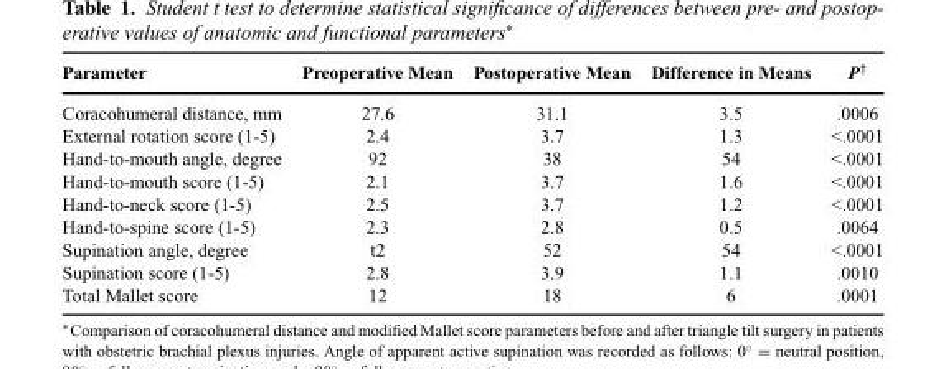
<table><thead><tr><td>Parameter</td><td>Preoperative Mean</td><td>Postoperative Mean</td><td>Difference in Means</td><td>P†</td></tr></thead><tbody><tr><td>Coracohumeral distance, mm</td><td>27.6</td><td>31.1</td><td>3.5</td><td>.0006</td></tr><tr><td>External rotation score (1-5)</td><td>2.4</td><td>3.7</td><td>1.3</td><td>&lt;.0001</td></tr><tr><td>Hand-to-mouth angle, degree</td><td>92</td><td>38</td><td>54</td><td>&lt;.0001</td></tr><tr><td>Hand-to-mouth score (1-5)</td><td>2.1</td><td>3.7</td><td>1.6</td><td>&lt;.0001</td></tr><tr><td>Hand-to-neck score (1-5)</td><td>2.5</td><td>3.7</td><td>1.2</td><td>&lt;.0001</td></tr><tr><td>Hand-to-spine score (1-5)</td><td>2.3</td><td>2.8</td><td>0.5</td><td>.0064</td></tr><tr><td>Supination angle, degree</td><td>t2</td><td>52</td><td>54</td><td>&lt;.0001</td></tr><tr><td>Supination score (1-5)</td><td>2.8</td><td>3.9</td><td>1.1</td><td>.0010</td></tr><tr><td>Total Mallet score</td><td>12</td><td>18</td><td>6</td><td>.0001</td></tr></tbody></table>